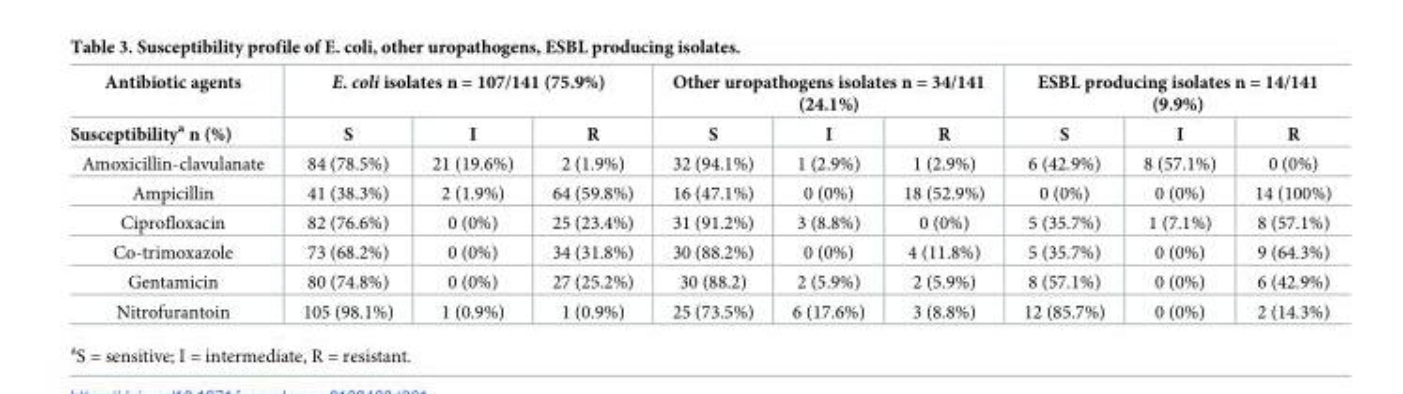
<table><thead><tr><td rowspan="2">Antibiotic agents Susceptibility<sup>a</sup> n (%)</td><td colspan="3">E. coli isolates n = 107/141 (75.9%)</td><td colspan="3">Other uropathogens isolates n = 34/141 (24.1%)</td><td colspan="3">ESBL producing isolates n = 14/141 (9.9%)</td></tr><tr><td>S</td><td>I</td><td>R</td><td>S</td><td>I</td><td>R</td><td>S</td><td>I</td><td>R</td></tr></thead><tbody><tr><td>Amoxicillin-clavulanate</td><td>84 (78.5%)</td><td>21 (19.6%)</td><td>2 (1.9%)</td><td>32 (94.1%)</td><td>1 (2.9%)</td><td>1 (2.9%)</td><td>6 (42.9%)</td><td>8 (57.1%)</td><td>0 (0%)</td></tr><tr><td>Ampicillin</td><td>41 (38.3%)</td><td>2 (1.9%)</td><td>64 (59.8%)</td><td>16 (47.1%)</td><td>0 (0%)</td><td>18 (52.9%)</td><td>0 (0%)</td><td>0 (0%)</td><td>14 (100%)</td></tr><tr><td>Ciprofloxacin</td><td>82 (76.6%)</td><td>0 (0%)</td><td>25 (23.4%)</td><td>31 (91.2%)</td><td>3 (8.8%)</td><td>0 (0%)</td><td>5 (35.7%)</td><td>1 (7.1%)</td><td>8 (57.1%)</td></tr><tr><td>Co-trimoxazole</td><td>73 (68.2%)</td><td>0 (0%)</td><td>34 (31.8%)</td><td>30 (88.2%)</td><td>0 (0%)</td><td>4 (11.8%)</td><td>5 (35.7%)</td><td>0 (0%)</td><td>9 (64.3%)</td></tr><tr><td>Gentamicin</td><td>80 (74.8%)</td><td>0 (0%)</td><td>27 (25.2%)</td><td>30 (88.2)</td><td>2 (5.9%)</td><td>2 (5.9%)</td><td>8 (57.1%)</td><td>0 (0%)</td><td>6 (42.9%)</td></tr><tr><td>Nitrofurantoin</td><td>105 (98.1%)</td><td>1 (0.9%)</td><td>1 (0.9%)</td><td>25 (73.5%)</td><td>6 (17.6%)</td><td>3 (8.8%)</td><td>12 (85.7%)</td><td>0 (0%)</td><td>2 (14.3%)</td></tr></tbody></table>